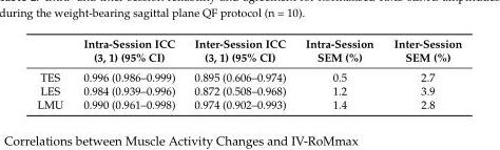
<table><thead><tr><td></td><td>Intra-Session ICC (3, 1) (95% CI)</td><td>Inter-Session ICC (3, 1) (95% CI)</td><td>Intra-Session SEM (%)</td><td>Inter-Session SEM (%)</td></tr></thead><tbody><tr><td>TES</td><td>0.996 (0.986–0.999)</td><td>0.895 (0.606–0.974)</td><td>0.5</td><td>2.7</td></tr><tr><td>LES</td><td>0.984 (0.939–0.996)</td><td>0.872 (0.508–0.968)</td><td>1.2</td><td>3.9</td></tr><tr><td>LMU</td><td>0.990 (0.961–0.998)</td><td>0.974 (0.902–0.993)</td><td>1.4</td><td>2.8</td></tr></tbody></table>